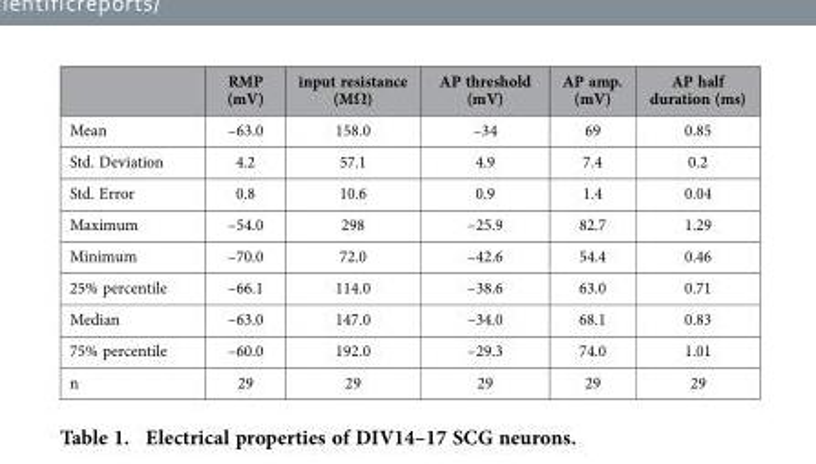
<table><thead><tr><td></td><td>RMP (mV)</td><td>input resistance (MΩ)</td><td>AP threshold (mV)</td><td>AP amp. (mV)</td><td>AP half duration (ms)</td></tr></thead><tbody><tr><td>Mean</td><td>–63.0</td><td>158.0</td><td>–34</td><td>69</td><td>0.85</td></tr><tr><td>Std. Deviation</td><td>4.2</td><td>57.1</td><td>4.9</td><td>7.4</td><td>0.2</td></tr><tr><td>Std. Error</td><td>0.8</td><td>10.6</td><td>0.9</td><td>1.4</td><td>0.04</td></tr><tr><td>Maximum</td><td>–54.0</td><td>298</td><td>–25.9</td><td>82.7</td><td>1.29</td></tr><tr><td>Minimum</td><td>–70.0</td><td>72.0</td><td>–42.6</td><td>54.4</td><td>0.46</td></tr><tr><td>25% percentile</td><td>–66.1</td><td>114.0</td><td>–38.6</td><td>63.0</td><td>0.71</td></tr><tr><td>Median</td><td>–63.0</td><td>147.0</td><td>–34.0</td><td>68.1</td><td>0.83</td></tr><tr><td>75% percentile</td><td>–60.0</td><td>192.0</td><td>–29.3</td><td>74.0</td><td>1.01</td></tr><tr><td>n</td><td>29</td><td>29</td><td>29</td><td>29</td><td>29</td></tr></tbody></table>